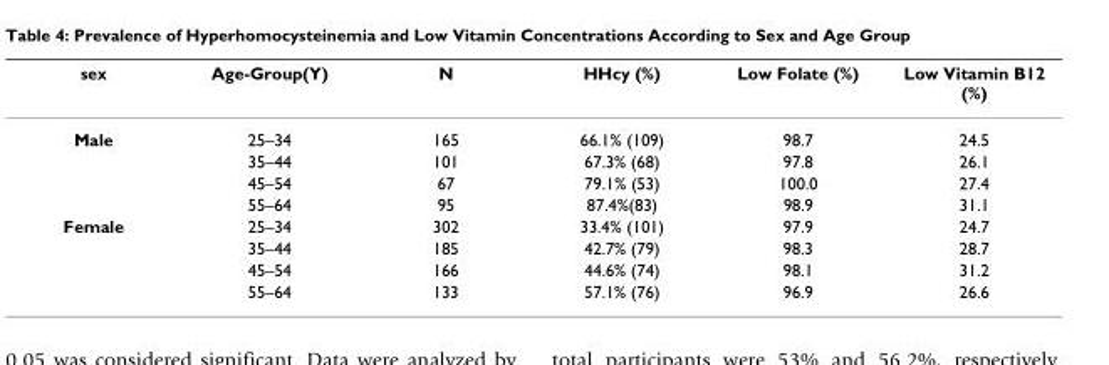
<table><thead><tr><td>sex</td><td>Age-Group(Y)</td><td>N</td><td>HHcy (%)</td><td>Low Folate (%)</td><td>Low Vitamin B12 (%)</td></tr></thead><tbody><tr><td rowspan="4">Male</td><td>25–34</td><td>165</td><td>66.1% (109)</td><td>98.7</td><td>24.5</td></tr><tr><td>35–44</td><td>101</td><td>67.3% (68)</td><td>97.8</td><td>26.1</td></tr><tr><td>45–54</td><td>67</td><td>79.1% (53)</td><td>100.0</td><td>27.4</td></tr><tr><td>55–64</td><td>95</td><td>87.4%(83)</td><td>98.9</td><td>31.1</td></tr><tr><td rowspan="4">Female</td><td>25–34</td><td>302</td><td>33.4% (101)</td><td>97.9</td><td>24.7</td></tr><tr><td>35–44</td><td>185</td><td>42.7% (79)</td><td>98.3</td><td>28.7</td></tr><tr><td>45–54</td><td>166</td><td>44.6% (74)</td><td>98.1</td><td>31.2</td></tr><tr><td>55–64</td><td>133</td><td>57.1% (76)</td><td>96.9</td><td>26.6</td></tr></tbody></table>